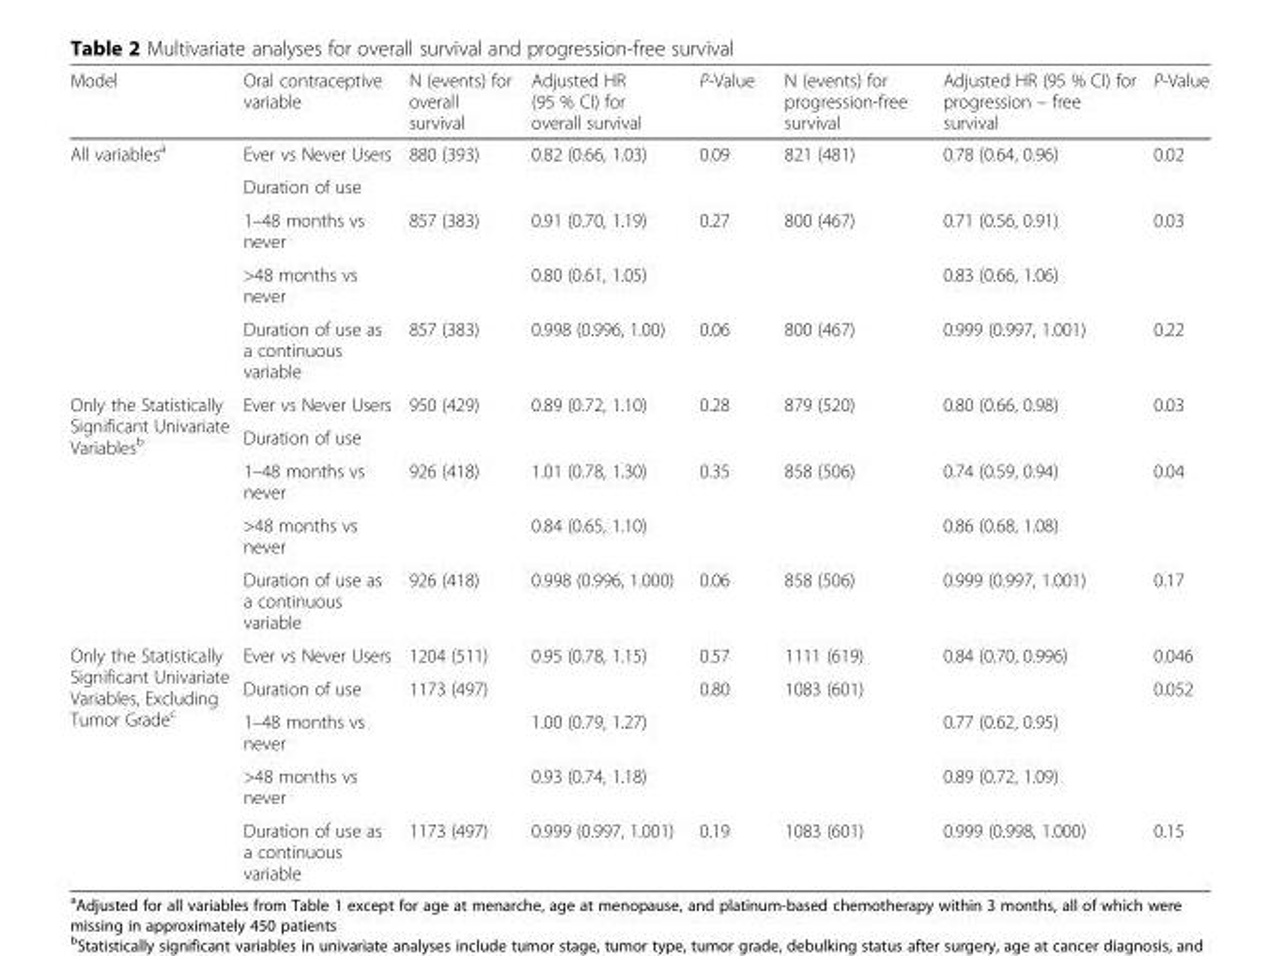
<table><thead><tr><td>Model</td><td>Oral contraceptive variable</td><td>N (events) for overall survival</td><td>Adjusted HR (95 % CI) for overall survival</td><td>P-Value</td><td>N (events) for progression-free survival</td><td>Adjusted HR (95 % CI) for progression – free survival</td><td>P-Value</td></tr></thead><tbody><tr><td rowspan="5">All variables<sup>a</sup></td><td>Ever vs Never Users</td><td>880 (393)</td><td>0.82 (0.66, 1.03)</td><td>0.09</td><td>821 (481)</td><td>0.78 (0.64, 0.96)</td><td>0.02</td></tr><tr><td>Duration of use</td><td></td><td></td><td></td><td></td><td></td><td></td></tr><tr><td>1–48 months vs never</td><td>857 (383)</td><td>0.91 (0.70, 1.19)</td><td>0.27</td><td>800 (467)</td><td>0.71 (0.56, 0.91)</td><td>0.03</td></tr><tr><td>&gt;48 months vs never</td><td></td><td>0.80 (0.61, 1.05)</td><td></td><td></td><td>0.83 (0.66, 1.06)</td><td></td></tr><tr><td>Duration of use as a continuous variable</td><td>857 (383)</td><td>0.998 (0.996, 1.00)</td><td>0.06</td><td>800 (467)</td><td>0.999 (0.997, 1.001)</td><td>0.22</td></tr><tr><td rowspan="5">Only the Statistically Significant Univariate Variables<sup>b</sup></td><td>Ever vs Never Users</td><td>950 (429)</td><td>0.89 (0.72, 1.10)</td><td>0.28</td><td>879 (520)</td><td>0.80 (0.66, 0.98)</td><td>0.03</td></tr><tr><td>Duration of use</td><td></td><td></td><td></td><td></td><td></td><td></td></tr><tr><td>1–48 months vs never</td><td>926 (418)</td><td>1.01 (0.78, 1.30)</td><td>0.35</td><td>858 (506)</td><td>0.74 (0.59, 0.94)</td><td>0.04</td></tr><tr><td>&gt;48 months vs never</td><td></td><td>0.84 (0.65, 1.10)</td><td></td><td></td><td>0.86 (0.68, 1.08)</td><td></td></tr><tr><td>Duration of use as a continuous variable</td><td>926 (418)</td><td>0.998 (0.996, 1.000)</td><td>0.06</td><td>858 (506)</td><td>0.999 (0.997, 1.001)</td><td>0.17</td></tr><tr><td rowspan="5">Only the Statistically Significant Univariate Variables, Excluding Tumor Grade<sup>c</sup></td><td>Ever vs Never Users</td><td>1204 (511)</td><td>0.95 (0.78, 1.15)</td><td>0.57</td><td>1111 (619)</td><td>0.84 (0.70, 0.996)</td><td>0.046</td></tr><tr><td>Duration of use</td><td>1173 (497)</td><td></td><td>0.80</td><td>1083 (601)</td><td></td><td>0.052</td></tr><tr><td>1–48 months vs never</td><td></td><td>1.00 (0.79, 1.27)</td><td></td><td></td><td>0.77 (0.62, 0.95)</td><td></td></tr><tr><td>&gt;48 months vs never</td><td></td><td>0.93 (0.74, 1.18)</td><td></td><td></td><td>0.89 (0.72, 1.09)</td><td></td></tr><tr><td>Duration of use as a continuous variable</td><td>1173 (497)</td><td>0.999 (0.997, 1.001)</td><td>0.19</td><td>1083 (601)</td><td>0.999 (0.998, 1.000)</td><td>0.15</td></tr></tbody></table>